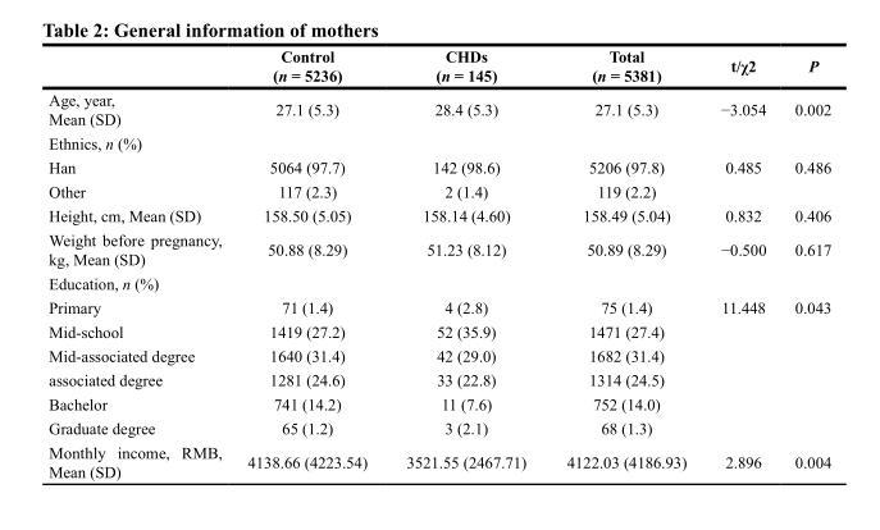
<table><thead><tr><td></td><td>Control (n = 5236)</td><td>CHDs (n = 145)</td><td>Total (n = 5381)</td><td>t/χ2</td><td>P</td></tr></thead><tbody><tr><td>Age, year, Mean (SD)</td><td>27.1 (5.3)</td><td>28.4 (5.3)</td><td>27.1 (5.3)</td><td>−3.054</td><td>0.002</td></tr><tr><td colspan="6">Ethnics, n (%)</td></tr><tr><td>Han</td><td>5064 (97.7)</td><td>142 (98.6)</td><td>5206 (97.8)</td><td>0.485</td><td>0.486</td></tr><tr><td>Other</td><td>117 (2.3)</td><td>2 (1.4)</td><td>119 (2.2)</td><td></td><td></td></tr><tr><td>Height, cm, Mean (SD)</td><td>158.50 (5.05)</td><td>158.14 (4.60)</td><td>158.49 (5.04)</td><td>0.832</td><td>0.406</td></tr><tr><td>Weight before pregnancy, kg, Mean (SD)</td><td>50.88 (8.29)</td><td>51.23 (8.12)</td><td>50.89 (8.29)</td><td>−0.500</td><td>0.617</td></tr><tr><td colspan="6">Education, n (%)</td></tr><tr><td>Primary</td><td>71 (1.4)</td><td>4 (2.8)</td><td>75 (1.4)</td><td>11.448</td><td>0.043</td></tr><tr><td>Mid-school</td><td>1419 (27.2)</td><td>52 (35.9)</td><td>1471 (27.4)</td><td></td><td></td></tr><tr><td>Mid-associated degree</td><td>1640 (31.4)</td><td>42 (29.0)</td><td>1682 (31.4)</td><td></td><td></td></tr><tr><td>associated degree</td><td>1281 (24.6)</td><td>33 (22.8)</td><td>1314 (24.5)</td><td></td><td></td></tr><tr><td>Bachelor</td><td>741 (14.2)</td><td>11 (7.6)</td><td>752 (14.0)</td><td></td><td></td></tr><tr><td>Graduate degree</td><td>65 (1.2)</td><td>3 (2.1)</td><td>68 (1.3)</td><td></td><td></td></tr><tr><td>Monthly income, RMB, Mean (SD)</td><td>4138.66 (4223.54)</td><td>3521.55 (2467.71)</td><td>4122.03 (4186.93)</td><td>2.896</td><td>0.004</td></tr></tbody></table>